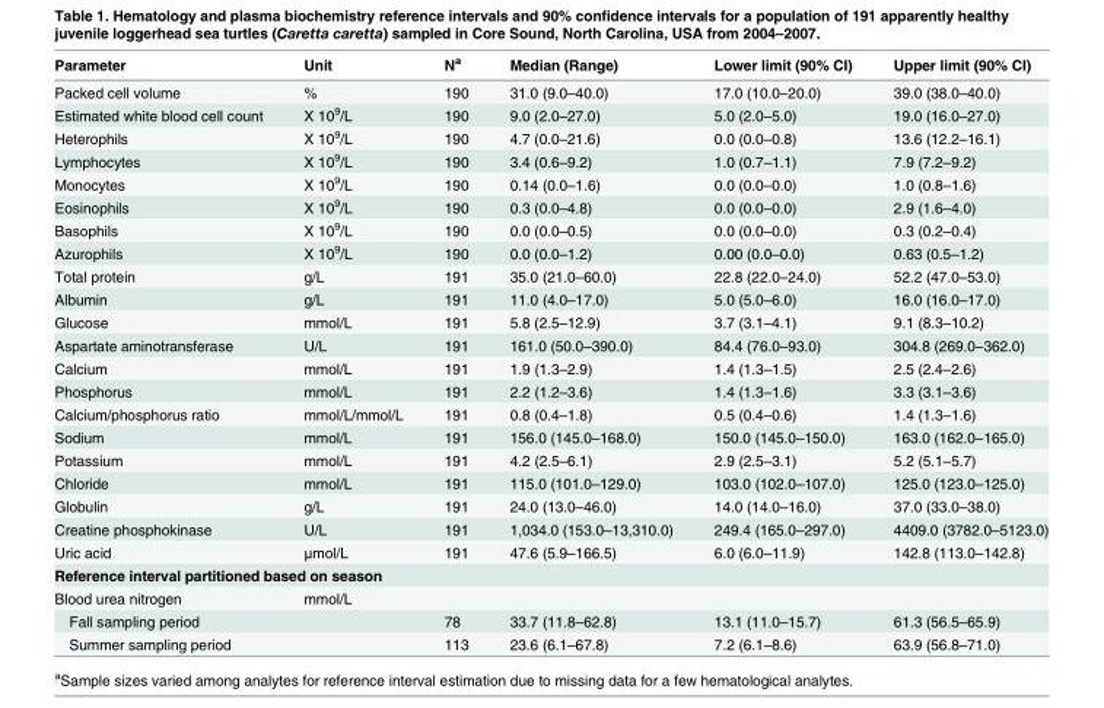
<table><thead><tr><td>Parameter</td><td>Unit</td><td>N<sup>a</sup></td><td>Median (Range)</td><td>Lower limit (90% CI)</td><td>Upper limit (90% CI)</td></tr></thead><tbody><tr><td>Packed cell volume</td><td>%</td><td>190</td><td>31.0 (9.0–40.0)</td><td>17.0 (10.0–20.0)</td><td>39.0 (38.0–40.0)</td></tr><tr><td>Estimated white blood cell count</td><td>X 10<sup>9</sup>/L</td><td>190</td><td>9.0 (2.0–27.0)</td><td>5.0 (2.0–5.0)</td><td>19.0 (16.0–27.0)</td></tr><tr><td>Heterophils</td><td>X 10<sup>9</sup>/L</td><td>190</td><td>4.7 (0.0–21.6)</td><td>0.0 (0.0–0.8)</td><td>13.6 (12.2–16.1)</td></tr><tr><td>Lymphocytes</td><td>X 10<sup>9</sup>/L</td><td>190</td><td>3.4 (0.6–9.2)</td><td>1.0 (0.7–1.1)</td><td>7.9 (7.2–9.2)</td></tr><tr><td>Monocytes</td><td>X 10<sup>9</sup>/L</td><td>190</td><td>0.14 (0.0–1.6)</td><td>0.0 (0.0–0.0)</td><td>1.0 (0.8–1.6)</td></tr><tr><td>Eosinophils</td><td>X 10<sup>9</sup>/L</td><td>190</td><td>0.3 (0.0–4.8)</td><td>0.0 (0.0–0.0)</td><td>2.9 (1.6–4.0)</td></tr><tr><td>Basophils</td><td>X 10<sup>9</sup>/L</td><td>190</td><td>0.0 (0.0–0.5)</td><td>0.0 (0.0–0.0)</td><td>0.3 (0.2–0.4)</td></tr><tr><td>Azurophils</td><td>X 10<sup>9</sup>/L</td><td>190</td><td>0.0 (0.0–1.2)</td><td>0.00 (0.0–0.0)</td><td>0.63 (0.5–1.2)</td></tr><tr><td>Total protein</td><td>g/L</td><td>191</td><td>35.0 (21.0–60.0)</td><td>22.8 (22.0–24.0)</td><td>52.2 (47.0–53.0)</td></tr><tr><td>Albumin</td><td>g/L</td><td>191</td><td>11.0 (4.0–17.0)</td><td>5.0 (5.0–6.0)</td><td>16.0 (16.0–17.0)</td></tr><tr><td>Glucose</td><td>mmol/L</td><td>191</td><td>5.8 (2.5–12.9)</td><td>3.7 (3.1–4.1)</td><td>9.1 (8.3–10.2)</td></tr><tr><td>Aspartate aminotransferase</td><td>U/L</td><td>191</td><td>161.0 (50.0–390.0)</td><td>84.4 (76.0–93.0)</td><td>304.8 (269.0–362.0)</td></tr><tr><td>Calcium</td><td>mmol/L</td><td>191</td><td>1.9 (1.3–2.9)</td><td>1.4 (1.3–1.5)</td><td>2.5 (2.4–2.6)</td></tr><tr><td>Phosphorus</td><td>mmol/L</td><td>191</td><td>2.2 (1.2–3.6)</td><td>1.4 (1.3–1.6)</td><td>3.3 (3.1–3.6)</td></tr><tr><td>Calcium/phosphorus ratio</td><td>mmol/L/mmol/L</td><td>191</td><td>0.8 (0.4–1.8)</td><td>0.5 (0.4–0.6)</td><td>1.4 (1.3–1.6)</td></tr><tr><td>Sodium</td><td>mmol/L</td><td>191</td><td>156.0 (145.0–168.0)</td><td>150.0 (145.0–150.0)</td><td>163.0 (162.0–165.0)</td></tr><tr><td>Potassium</td><td>mmol/L</td><td>191</td><td>4.2 (2.5–6.1)</td><td>2.9 (2.5–3.1)</td><td>5.2 (5.1–5.7)</td></tr><tr><td>Chloride</td><td>mmol/L</td><td>191</td><td>115.0 (101.0–129.0)</td><td>103.0 (102.0–107.0)</td><td>125.0 (123.0–125.0)</td></tr><tr><td>Globulin</td><td>g/L</td><td>191</td><td>24.0 (13.0–46.0)</td><td>14.0 (14.0–16.0)</td><td>37.0 (33.0–38.0)</td></tr><tr><td>Creatine phosphokinase</td><td>U/L</td><td>191</td><td>1,034.0 (153.0–13,310.0)</td><td>249.4 (165.0–297.0)</td><td>4409.0 (3782.0–5123.0)</td></tr><tr><td>Uric acid</td><td>μmol/L</td><td>191</td><td>47.6 (5.9–166.5)</td><td>6.0 (6.0–11.9)</td><td>142.8 (113.0–142.8)</td></tr><tr><td colspan="6">Reference interval partitioned based on season</td></tr><tr><td>Blood urea nitrogen</td><td>mmol/L</td><td colspan="4"></td></tr><tr><td>Fall sampling period</td><td></td><td>78</td><td>33.7 (11.8–62.8)</td><td>13.1 (11.0–15.7)</td><td>61.3 (56.5–65.9)</td></tr><tr><td>Summer sampling period</td><td></td><td>113</td><td>23.6 (6.1–67.8)</td><td>7.2 (6.1–8.6)</td><td>63.9 (56.8–71.0)</td></tr></tbody></table>